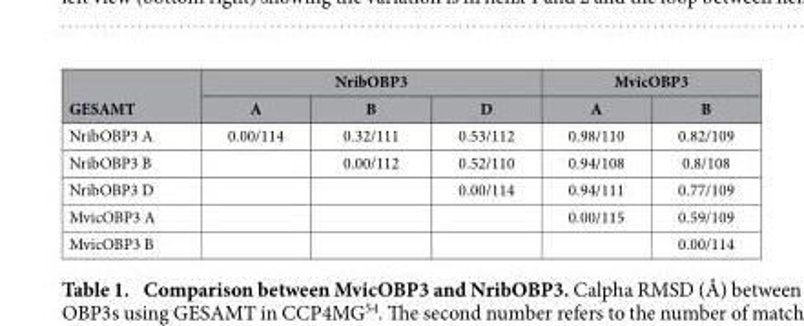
<table><thead><tr><td rowspan="2">GESAMT</td><td colspan="3">NribOBP3</td><td colspan="2">MvicOBP3</td></tr><tr><td>A</td><td>B</td><td>D</td><td>A</td><td>B</td></tr></thead><tbody><tr><td>NribOBP3 A</td><td>0.00/114</td><td>0.32/111</td><td>0.53/112</td><td>0.98/110</td><td>0.82/109</td></tr><tr><td>NribOBP3 B</td><td></td><td>0.00/112</td><td>0.52/110</td><td>0.94/108</td><td>0.8/108</td></tr><tr><td>NribOBP3 D</td><td></td><td></td><td>0.00/114</td><td>0.94/111</td><td>0.77/109</td></tr><tr><td>MvicOBP3 A</td><td></td><td></td><td></td><td>0.00/115</td><td>0.59/109</td></tr><tr><td>MvicOBP3 B</td><td></td><td></td><td></td><td></td><td>0.00/114</td></tr></tbody></table>